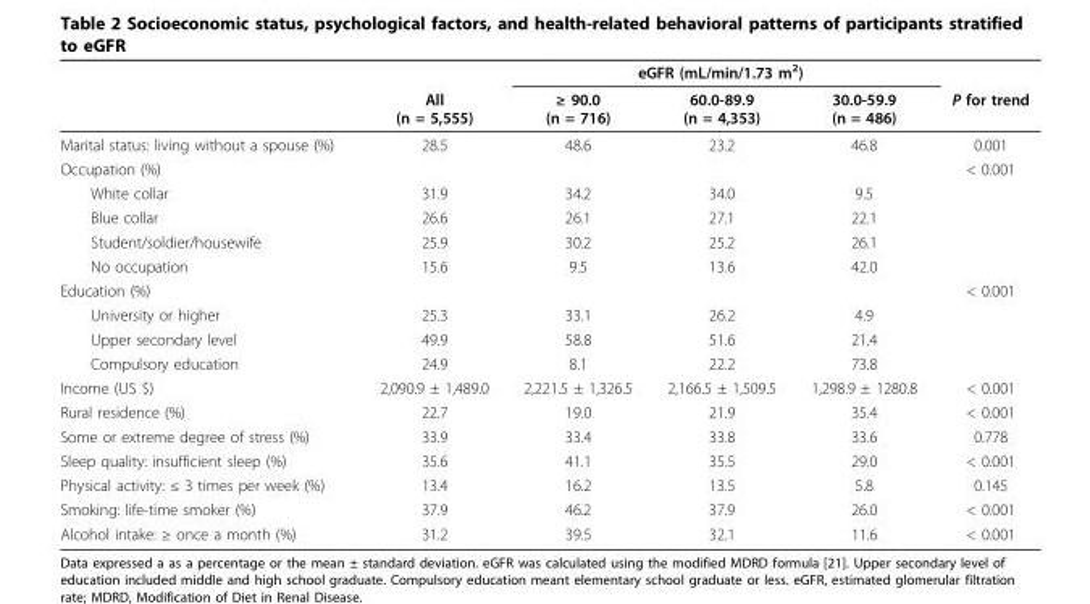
<table><thead><tr><td rowspan="2"></td><td rowspan="2">All (n = 5,555)</td><td colspan="3">eGFR (mL/min/1.73 m<sup>2</sup>)</td><td rowspan="2">P for trend</td></tr><tr><td>≥ 90.0 (n = 716)</td><td>60.0-89.9 (n = 4,353)</td><td>30.0-59.9 (n = 486)</td></tr></thead><tbody><tr><td>Marital status: living without a spouse (%)</td><td>28.5</td><td>48.6</td><td>23.2</td><td>46.8</td><td>0.001</td></tr><tr><td>Occupation (%)</td><td></td><td></td><td></td><td></td><td>&lt; 0.001</td></tr><tr><td>White collar</td><td>31.9</td><td>34.2</td><td>34.0</td><td>9.5</td><td></td></tr><tr><td>Blue collar</td><td>26.6</td><td>26.1</td><td>27.1</td><td>22.1</td><td></td></tr><tr><td>Student/soldier/housewife</td><td>25.9</td><td>30.2</td><td>25.2</td><td>26.1</td><td></td></tr><tr><td>No occupation</td><td>15.6</td><td>9.5</td><td>13.6</td><td>42.0</td><td></td></tr><tr><td>Education (%)</td><td></td><td></td><td></td><td></td><td>&lt; 0.001</td></tr><tr><td>University or higher</td><td>25.3</td><td>33.1</td><td>26.2</td><td>4.9</td><td></td></tr><tr><td>Upper secondary level</td><td>49.9</td><td>58.8</td><td>51.6</td><td>21.4</td><td></td></tr><tr><td>Compulsory education</td><td>24.9</td><td>8.1</td><td>22.2</td><td>73.8</td><td></td></tr><tr><td>Income (US $)</td><td>2,090.9 ± 1,489.0</td><td>2,221.5 ± 1,326.5</td><td>2,166.5 ± 1,509.5</td><td>1,298.9 ± 1280.8</td><td>&lt; 0.001</td></tr><tr><td>Rural residence (%)</td><td>22.7</td><td>19.0</td><td>21.9</td><td>35.4</td><td>&lt; 0.001</td></tr><tr><td>Some or extreme degree of stress (%)</td><td>33.9</td><td>33.4</td><td>33.8</td><td>33.6</td><td>0.778</td></tr><tr><td>Sleep quality: insufficient sleep (%)</td><td>35.6</td><td>41.1</td><td>35.5</td><td>29.0</td><td>&lt; 0.001</td></tr><tr><td>Physical activity: ≤ 3 times per week (%)</td><td>13.4</td><td>16.2</td><td>13.5</td><td>5.8</td><td>0.145</td></tr><tr><td>Smoking: life-time smoker (%)</td><td>37.9</td><td>46.2</td><td>37.9</td><td>26.0</td><td>&lt; 0.001</td></tr><tr><td>Alcohol intake: ≥ once a month (%)</td><td>31.2</td><td>39.5</td><td>32.1</td><td>11.6</td><td>&lt; 0.001</td></tr></tbody></table>